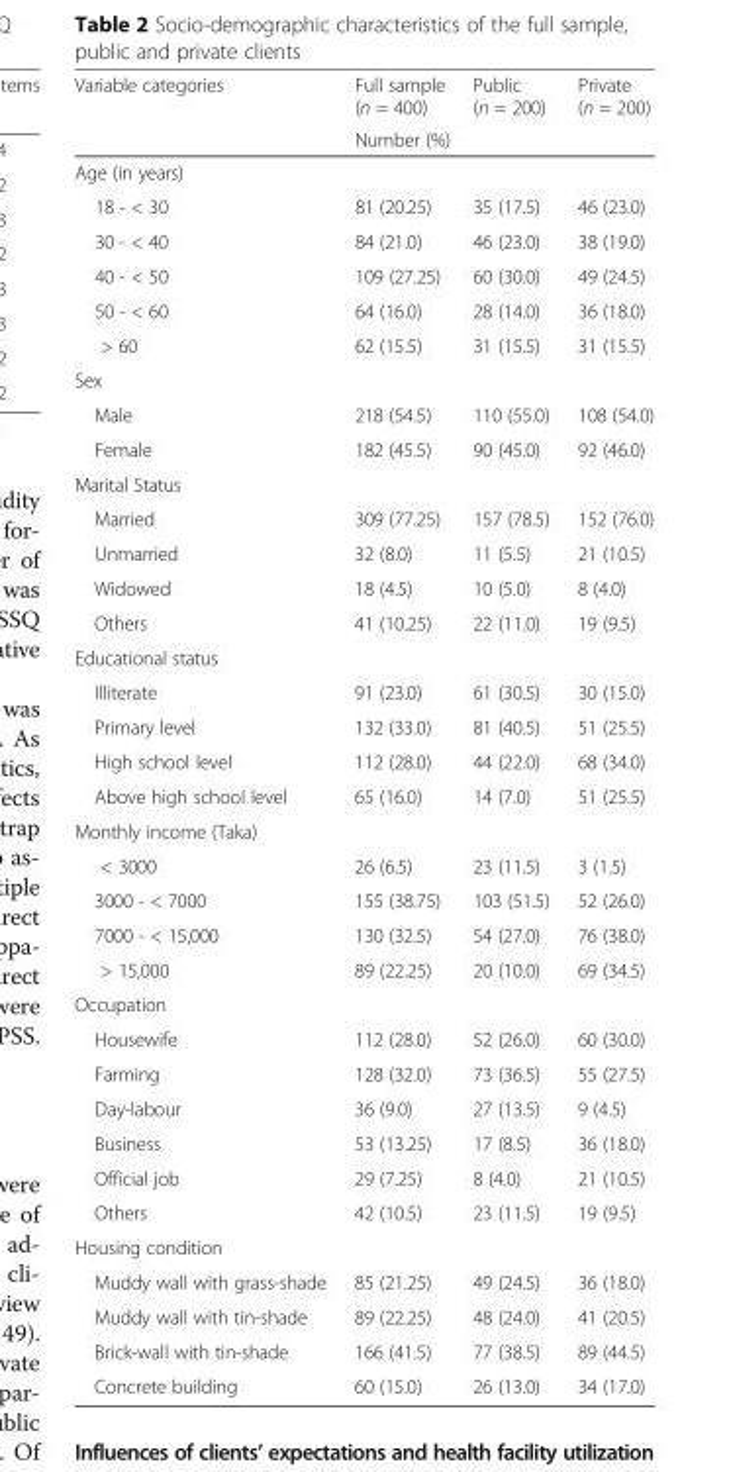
<table><thead><tr><td rowspan="2">Variable categories</td><td>Full sample (n = 400)</td><td>Public (n = 200)</td><td>Private (n = 200)</td></tr><tr><td colspan="3">Number (%)</td></tr></thead><tbody><tr><td colspan="4">Age (in years)</td></tr><tr><td>18 - &lt; 30</td><td>81 (20.25)</td><td>35 (17.5)</td><td>46 (23.0)</td></tr><tr><td>30 - &lt; 40</td><td>84 (21.0)</td><td>46 (23.0)</td><td>38 (19.0)</td></tr><tr><td>40 - &lt; 50</td><td>109 (27.25)</td><td>60 (30.0)</td><td>49 (24.5)</td></tr><tr><td>50 - &lt; 60</td><td>64 (16.0)</td><td>28 (14.0)</td><td>36 (18.0)</td></tr><tr><td>&gt; 60</td><td>62 (15.5)</td><td>31 (15.5)</td><td>31 (15.5)</td></tr><tr><td colspan="4">Sex</td></tr><tr><td>Male</td><td>218 (54.5)</td><td>110 (55.0)</td><td>108 (54.0)</td></tr><tr><td>Female</td><td>182 (45.5)</td><td>90 (45.0)</td><td>92 (46.0)</td></tr><tr><td colspan="4">Marital Status</td></tr><tr><td>Married</td><td>309 (77.25)</td><td>157 (78.5)</td><td>152 (76.0)</td></tr><tr><td>Unmarried</td><td>32 (8.0)</td><td>11 (5.5)</td><td>21 (10.5)</td></tr><tr><td>Widowed</td><td>18 (4.5)</td><td>10 (5.0)</td><td>8 (4.0)</td></tr><tr><td>Others</td><td>41 (10.25)</td><td>22 (11.0)</td><td>19 (9.5)</td></tr><tr><td colspan="4">Educational status</td></tr><tr><td>Illiterate</td><td>91 (23.0)</td><td>61 (30.5)</td><td>30 (15.0)</td></tr><tr><td>Primary level</td><td>132 (33.0)</td><td>81 (40.5)</td><td>51 (25.5)</td></tr><tr><td>High school level</td><td>112 (28.0)</td><td>44 (22.0)</td><td>68 (34.0)</td></tr><tr><td>Above high school level</td><td>65 (16.0)</td><td>14 (7.0)</td><td>51 (25.5)</td></tr><tr><td colspan="4">Monthly income (Taka)</td></tr><tr><td>&lt; 3000</td><td>26 (6.5)</td><td>23 (11.5)</td><td>3 (1.5)</td></tr><tr><td>3000 - &lt; 7000</td><td>155 (38.75)</td><td>103 (51.5)</td><td>52 (26.0)</td></tr><tr><td>7000 - &lt; 15,000</td><td>130 (32.5)</td><td>54 (27.0)</td><td>76 (38.0)</td></tr><tr><td>&gt; 15,000</td><td>89 (22.25)</td><td>20 (10.0)</td><td>69 (34.5)</td></tr><tr><td colspan="4">Occupation</td></tr><tr><td>Housewife</td><td>112 (28.0)</td><td>52 (26.0)</td><td>60 (30.0)</td></tr><tr><td>Farming</td><td>128 (32.0)</td><td>73 (36.5)</td><td>55 (27.5)</td></tr><tr><td>Day-labour</td><td>36 (9.0)</td><td>27 (13.5)</td><td>9 (4.5)</td></tr><tr><td>Business</td><td>53 (13.25)</td><td>17 (8.5)</td><td>36 (18.0)</td></tr><tr><td>Official job</td><td>29 (7.25)</td><td>8 (4.0)</td><td>21 (10.5)</td></tr><tr><td>Others</td><td>42 (10.5)</td><td>23 (11.5)</td><td>19 (9.5)</td></tr><tr><td colspan="4">Housing condition</td></tr><tr><td>Muddy wall with grass-shade</td><td>85 (21.25)</td><td>49 (24.5)</td><td>36 (18.0)</td></tr><tr><td>Muddy wall with tin-shade</td><td>89 (22.25)</td><td>48 (24.0)</td><td>41 (20.5)</td></tr><tr><td>Brick-wall with tin-shade</td><td>166 (41.5)</td><td>77 (38.5)</td><td>89 (44.5)</td></tr><tr><td>Concrete building</td><td>60 (15.0)</td><td>26 (13.0)</td><td>34 (17.0)</td></tr></tbody></table>